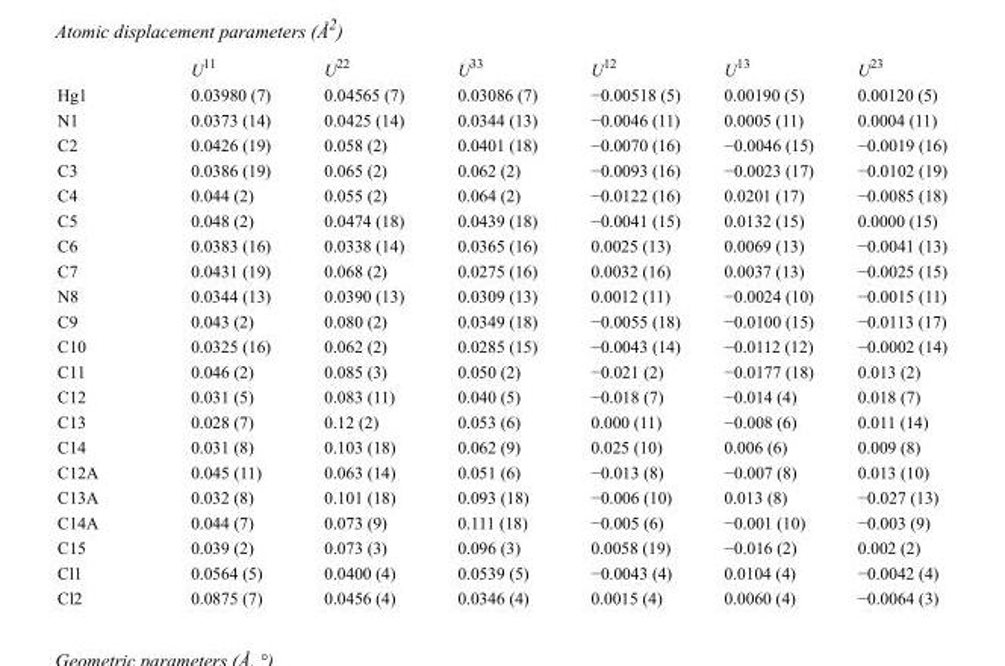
<table><thead><tr><td></td><td>U<sup>11</sup></td><td>U<sup>22</sup></td><td>U<sup>33</sup></td><td>U<sup>12</sup></td><td>U<sup>13</sup></td><td>U<sup>23</sup></td></tr></thead><tbody><tr><td>Hg1</td><td>0.03980 (7)</td><td>0.04565 (7)</td><td>0.03086 (7)</td><td>−0.00518 (5)</td><td>0.00190 (5)</td><td>0.00120 (5)</td></tr><tr><td>N1</td><td>0.0373 (14)</td><td>0.0425 (14)</td><td>0.0344 (13)</td><td>−0.0046 (11)</td><td>0.0005 (11)</td><td>0.0004 (11)</td></tr><tr><td>C2</td><td>0.0426 (19)</td><td>0.058 (2)</td><td>0.0401 (18)</td><td>−0.0070 (16)</td><td>−0.0046 (15)</td><td>−0.0019 (16)</td></tr><tr><td>C3</td><td>0.0386 (19)</td><td>0.065 (2)</td><td>0.062 (2)</td><td>−0.0093 (16)</td><td>−0.0023 (17)</td><td>−0.0102 (19)</td></tr><tr><td>C4</td><td>0.044 (2)</td><td>0.055 (2)</td><td>0.064 (2)</td><td>−0.0122 (16)</td><td>0.0201 (17)</td><td>−0.0085 (18)</td></tr><tr><td>C5</td><td>0.048 (2)</td><td>0.0474 (18)</td><td>0.0439 (18)</td><td>−0.0041 (15)</td><td>0.0132 (15)</td><td>0.0000 (15)</td></tr><tr><td>C6</td><td>0.0383 (16)</td><td>0.0338 (14)</td><td>0.0365 (16)</td><td>0.0025 (13)</td><td>0.0069 (13)</td><td>−0.0041 (13)</td></tr><tr><td>C7</td><td>0.0431 (19)</td><td>0.068 (2)</td><td>0.0275 (16)</td><td>0.0032 (16)</td><td>0.0037 (13)</td><td>−0.0025 (15)</td></tr><tr><td>N8</td><td>0.0344 (13)</td><td>0.0390 (13)</td><td>0.0309 (13)</td><td>0.0012 (11)</td><td>−0.0024 (10)</td><td>−0.0015 (11)</td></tr><tr><td>C9</td><td>0.043 (2)</td><td>0.080 (2)</td><td>0.0349 (18)</td><td>−0.0055 (18)</td><td>−0.0100 (15)</td><td>−0.0113 (17)</td></tr><tr><td>C10</td><td>0.0325 (16)</td><td>0.062 (2)</td><td>0.0285 (15)</td><td>−0.0043 (14)</td><td>−0.0112 (12)</td><td>−0.0002 (14)</td></tr><tr><td>C11</td><td>0.046 (2)</td><td>0.085 (3)</td><td>0.050 (2)</td><td>−0.021 (2)</td><td>−0.0177 (18)</td><td>0.013 (2)</td></tr><tr><td>C12</td><td>0.031 (5)</td><td>0.083 (11)</td><td>0.040 (5)</td><td>−0.018 (7)</td><td>−0.014 (4)</td><td>0.018 (7)</td></tr><tr><td>C13</td><td>0.028 (7)</td><td>0.12 (2)</td><td>0.053 (6)</td><td>0.000 (11)</td><td>−0.008 (6)</td><td>0.011 (14)</td></tr><tr><td>C14</td><td>0.031 (8)</td><td>0.103 (18)</td><td>0.062 (9)</td><td>0.025 (10)</td><td>0.006 (6)</td><td>0.009 (8)</td></tr><tr><td>C12A</td><td>0.045 (11)</td><td>0.063 (14)</td><td>0.051 (6)</td><td>−0.013 (8)</td><td>−0.007 (8)</td><td>0.013 (10)</td></tr><tr><td>C13A</td><td>0.032 (8)</td><td>0.101 (18)</td><td>0.093 (18)</td><td>−0.006 (10)</td><td>0.013 (8)</td><td>−0.027 (13)</td></tr><tr><td>C14A</td><td>0.044 (7)</td><td>0.073 (9)</td><td>0.111 (18)</td><td>−0.005 (6)</td><td>−0.001 (10)</td><td>−0.003 (9)</td></tr><tr><td>C15</td><td>0.039 (2)</td><td>0.073 (3)</td><td>0.096 (3)</td><td>0.0058 (19)</td><td>−0.016 (2)</td><td>0.002 (2)</td></tr><tr><td>Cl1</td><td>0.0564 (5)</td><td>0.0400 (4)</td><td>0.0539 (5)</td><td>−0.0043 (4)</td><td>0.0104 (4)</td><td>−0.0042 (4)</td></tr><tr><td>Cl2</td><td>0.0875 (7)</td><td>0.0456 (4)</td><td>0.0346 (4)</td><td>0.0015 (4)</td><td>0.0060 (4)</td><td>−0.0064 (3)</td></tr></tbody></table>